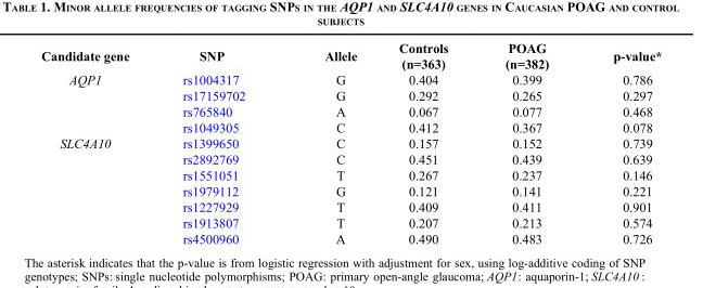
<table><thead><tr><td>Candidate gene</td><td>SNP</td><td>Allele</td><td>Controls (n=363)</td><td>POAG (n=382)</td><td>p-value*</td></tr></thead><tbody><tr><td rowspan="4">AQP1</td><td>rs1004317</td><td>G</td><td>0.404</td><td>0.399</td><td>0.786</td></tr><tr><td>rs17159702</td><td>G</td><td>0.292</td><td>0.265</td><td>0.297</td></tr><tr><td>rs765840</td><td>A</td><td>0.067</td><td>0.077</td><td>0.468</td></tr><tr><td>rs1049305</td><td>C</td><td>0.412</td><td>0.367</td><td>0.078</td></tr><tr><td rowspan="7">SLC4A10</td><td>rs1399650</td><td>C</td><td>0.157</td><td>0.152</td><td>0.739</td></tr><tr><td>rs2892769</td><td>C</td><td>0.451</td><td>0.439</td><td>0.639</td></tr><tr><td>rs1551051</td><td>T</td><td>0.267</td><td>0.237</td><td>0.146</td></tr><tr><td>rs1979112</td><td>G</td><td>0.121</td><td>0.141</td><td>0.221</td></tr><tr><td>rs1227929</td><td>T</td><td>0.409</td><td>0.411</td><td>0.901</td></tr><tr><td>rs1913807</td><td>T</td><td>0.207</td><td>0.213</td><td>0.574</td></tr><tr><td>rs4500960</td><td>A</td><td>0.490</td><td>0.483</td><td>0.726</td></tr></tbody></table>